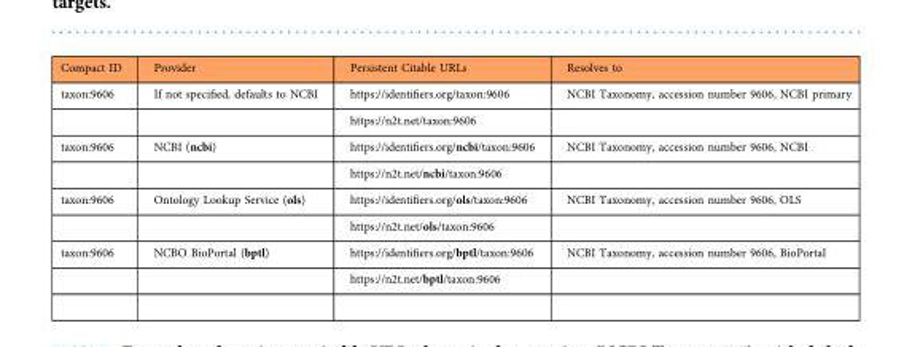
<table><thead><tr><td>Compact ID</td><td>Provider</td><td>Persistent Citable URLs</td><td>Resolves to</td></tr></thead><tbody><tr><td rowspan="2">taxon:9606</td><td>If not specified, defaults to NCBI</td><td>https://identifiers.org/taxon:9606</td><td>NCBI Taxonomy, accession number 9606, NCBI primary</td></tr><tr><td></td><td>https://n2t.net/taxon:9606</td><td></td></tr><tr><td rowspan="2">taxon:9606</td><td>NCBI (ncbi)</td><td>https://identifiers.org/ncbi/taxon:9606</td><td>NCBI Taxonomy, accession number 9606, NCBI</td></tr><tr><td></td><td>https://n2t.net/ncbi/taxon:9606</td><td></td></tr><tr><td rowspan="2">taxon:9606</td><td>Ontology Lookup Service (ols)</td><td>https://identifiers.org/ols/taxon:9606</td><td>NCBI Taxonomy, accession number 9606, OLS</td></tr><tr><td></td><td>https://n2t.net/ols/taxon:9606</td><td></td></tr><tr><td rowspan="2">taxon:9606</td><td>NCBO BioPortal (bptl)</td><td>https://identifiers.org/bptl/taxon:9606</td><td>NCBI Taxonomy, accession number 9606, BioPortal</td></tr><tr><td></td><td>https://n2t.net/bptl/taxon:9606</td><td></td></tr></tbody></table>